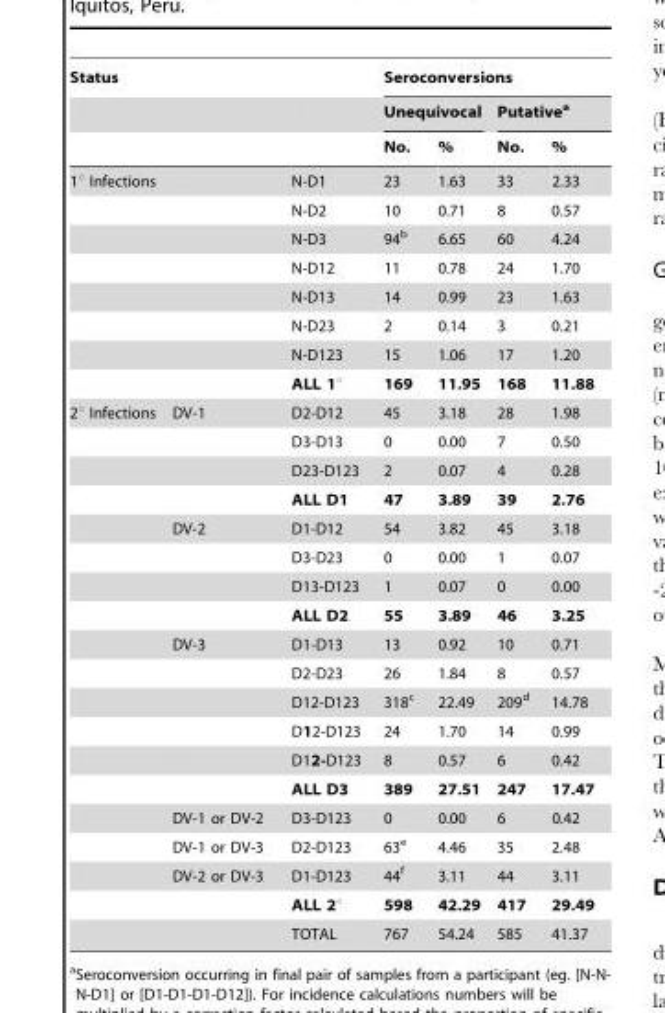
<table><thead><tr><td colspan="3">Status</td><td colspan="4">Seroconversions</td></tr><tr><td rowspan="2"></td><td rowspan="2"></td><td rowspan="2"></td><td colspan="2">Unequivocal</td><td colspan="2">Putative<sup>a</sup></td></tr><tr><td>No.</td><td>%</td><td>No.</td><td>%</td></tr></thead><tbody><tr><td rowspan="8">1° Infections</td><td></td><td>N-D1</td><td>23</td><td>1.63</td><td>33</td><td>2.33</td></tr><tr><td></td><td>N-D2</td><td>10</td><td>0.71</td><td>8</td><td>0.57</td></tr><tr><td></td><td>N-D3</td><td>94<sup>b</sup></td><td>6.65</td><td>60</td><td>4.24</td></tr><tr><td></td><td>N-D12</td><td>11</td><td>0.78</td><td>24</td><td>1.70</td></tr><tr><td></td><td>N-D13</td><td>14</td><td>0.99</td><td>23</td><td>1.63</td></tr><tr><td></td><td>N-D23</td><td>2</td><td>0.14</td><td>3</td><td>0.21</td></tr><tr><td></td><td>N-D123</td><td>15</td><td>1.06</td><td>17</td><td>1.20</td></tr><tr><td></td><td>ALL 1°</td><td>169</td><td>11.95</td><td>168</td><td>11.88</td></tr><tr><td rowspan="19">2° Infections</td><td>DV-1</td><td>D2-D12</td><td>45</td><td>3.18</td><td>28</td><td>1.98</td></tr><tr><td></td><td>D3-D13</td><td>0</td><td>0.00</td><td>7</td><td>0.50</td></tr><tr><td></td><td>D23-D123</td><td>2</td><td>0.07</td><td>4</td><td>0.28</td></tr><tr><td></td><td>ALL D1</td><td>47</td><td>3.89</td><td>39</td><td>2.76</td></tr><tr><td>DV-2</td><td>D1-D12</td><td>54</td><td>3.82</td><td>45</td><td>3.18</td></tr><tr><td></td><td>D3-D23</td><td>0</td><td>0.00</td><td>1</td><td>0.07</td></tr><tr><td></td><td>D13-D123</td><td>1</td><td>0.07</td><td>0</td><td>0.00</td></tr><tr><td></td><td>ALL D2</td><td>55</td><td>3.89</td><td>46</td><td>3.25</td></tr><tr><td>DV-3</td><td>D1-D13</td><td>13</td><td>0.92</td><td>10</td><td>0.71</td></tr><tr><td></td><td>D2-D23</td><td>26</td><td>1.84</td><td>8</td><td>0.57</td></tr><tr><td></td><td>D12-D123</td><td>318<sup>c</sup></td><td>22.49</td><td>209<sup>d</sup></td><td>14.78</td></tr><tr><td></td><td>D12-D123</td><td>24</td><td>1.70</td><td>14</td><td>0.99</td></tr><tr><td></td><td>D12-D123</td><td>8</td><td>0.57</td><td>6</td><td>0.42</td></tr><tr><td></td><td>ALL D3</td><td>389</td><td>27.51</td><td>247</td><td>17.47</td></tr><tr><td>DV-1 or DV-2</td><td>D3-D123</td><td>0</td><td>0.00</td><td>6</td><td>0.42</td></tr><tr><td>DV-1 or DV-3</td><td>D2-D123</td><td>63<sup>e</sup></td><td>4.46</td><td>35</td><td>2.48</td></tr><tr><td>DV-2 or DV-3</td><td>D1-D123</td><td>44<sup>f</sup></td><td>3.11</td><td>44</td><td>3.11</td></tr><tr><td></td><td>ALL 2°</td><td>598</td><td>42.29</td><td>417</td><td>29.49</td></tr><tr><td></td><td>TOTAL</td><td>767</td><td>54.24</td><td>585</td><td>41.37</td></tr></tbody></table>